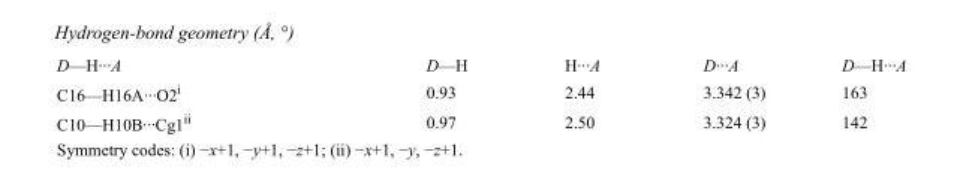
<table><tbody><tr><td>D—H···A</td><td>D—H</td><td>H···A</td><td>D···A</td><td>D—H···A</td></tr><tr><td>C16—H16A···O2<sup>i</sup></td><td>0.93</td><td>2.44</td><td>3.342 (3)</td><td>163</td></tr><tr><td>C10—H10B···Cg1<sup>ii</sup></td><td>0.97</td><td>2.50</td><td>3.324 (3)</td><td>142</td></tr></tbody></table>